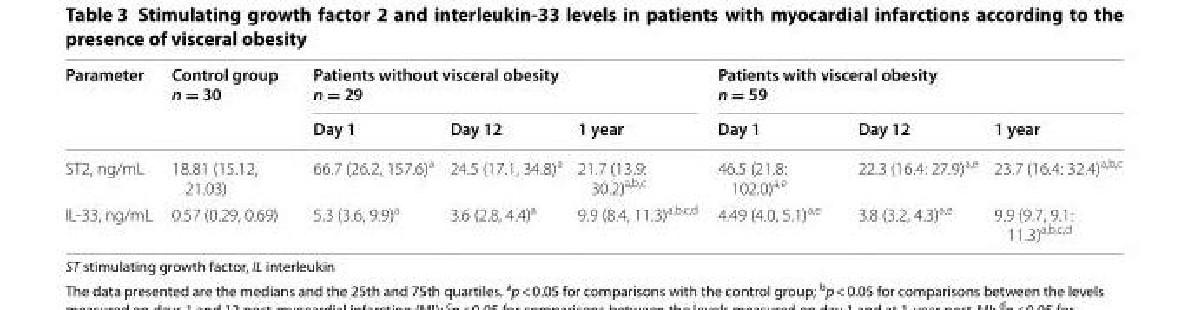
<table><thead><tr><td rowspan="2">Parameter</td><td rowspan="2">Control group n = 30</td><td colspan="3">Patients without visceral obesity n = 29</td><td colspan="3">Patients with visceral obesity n = 59</td></tr><tr><td>Day 1</td><td>Day 12</td><td>1 year</td><td>Day 1</td><td>Day 12</td><td>1 year</td></tr></thead><tbody><tr><td>ST2, ng/mL</td><td>18.81 (15.12, 21.03)</td><td>66.7 (26.2, 157.6)<sup>a</sup></td><td>24.5 (17.1, 34.8)<sup>a</sup></td><td>21.7 (13.9: 30.2)<sup>a,b,с</sup></td><td>46.5 (21.8: 102.0)<sup>a,е</sup></td><td>22.3 (16.4: 27.9)<sup>a,е</sup></td><td>23.7 (16.4: 32.4)<sup>a,b,с</sup></td></tr><tr><td>IL-33, ng/mL</td><td>0.57 (0.29, 0.69)</td><td>5.3 (3.6, 9.9)<sup>a</sup></td><td>3.6 (2.8, 4.4)<sup>a</sup></td><td>9.9 (8.4, 11.3)<sup>a,b,с,d</sup></td><td>4.49 (4.0, 5.1)<sup>a,е</sup></td><td>3.8 (3.2, 4.3)<sup>a,е</sup></td><td>9.9 (9.7, 9.1: 11.3)<sup>a,b,с,d</sup></td></tr></tbody></table>